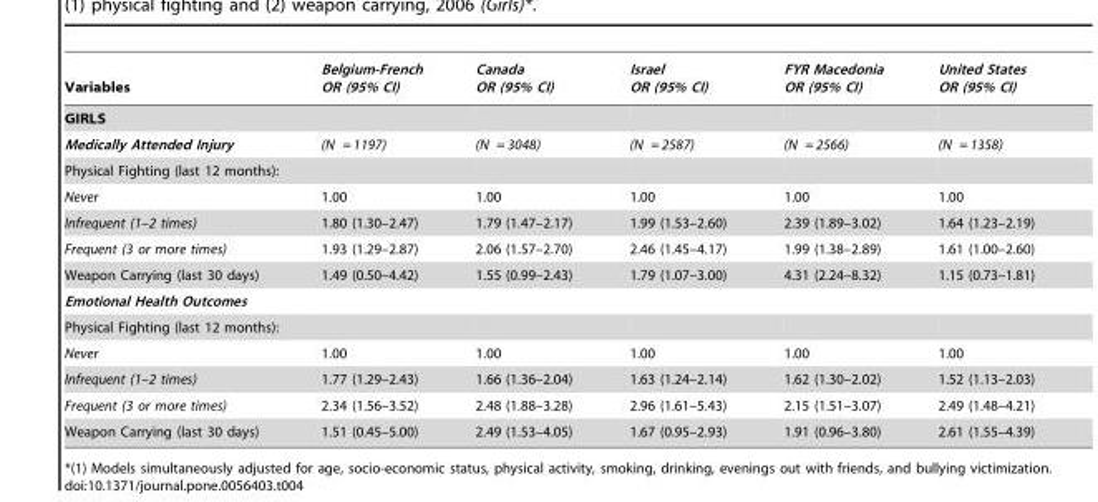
<table><thead><tr><td>Variables</td><td>Belgium-French OR (95% CI)</td><td>Canada OR (95% CI)</td><td>Israel OR (95% CI)</td><td>FYR Macedonia OR (95% CI)</td><td>United States OR (95% CI)</td></tr></thead><tbody><tr><td colspan="6">GIRLS</td></tr><tr><td>Medically Attended Injury</td><td>(N = 1197)</td><td>(N = 3048)</td><td>(N = 2587)</td><td>(N = 2566)</td><td>(N = 1358)</td></tr><tr><td colspan="6">Physical Fighting (last 12 months):</td></tr><tr><td>Never</td><td>1.00</td><td>1.00</td><td>1.00</td><td>1.00</td><td>1.00</td></tr><tr><td>Infrequent (1–2 times)</td><td>1.80 (1.30–2.47)</td><td>1.79 (1.47–2.17)</td><td>1.99 (1.53–2.60)</td><td>2.39 (1.89–3.02)</td><td>1.64 (1.23–2.19)</td></tr><tr><td>Frequent (3 or more times)</td><td>1.93 (1.29–2.87)</td><td>2.06 (1.57–2.70)</td><td>2.46 (1.45–4.17)</td><td>1.99 (1.38–2.89)</td><td>1.61 (1.00–2.60)</td></tr><tr><td>Weapon Carrying (last 30 days)</td><td>1.49 (0.50–4.42)</td><td>1.55 (0.99–2.43)</td><td>1.79 (1.07–3.00)</td><td>4.31 (2.24–8.32)</td><td>1.15 (0.73–1.81)</td></tr><tr><td colspan="6">Emotional Health Outcomes</td></tr><tr><td colspan="6">Physical Fighting (last 12 months):</td></tr><tr><td>Never</td><td>1.00</td><td>1.00</td><td>1.00</td><td>1.00</td><td>1.00</td></tr><tr><td>Infrequent (1–2 times)</td><td>1.77 (1.29–2.43)</td><td>1.66 (1.36–2.04)</td><td>1.63 (1.24–2.14)</td><td>1.62 (1.30–2.02)</td><td>1.52 (1.13–2.03)</td></tr><tr><td>Frequent (3 or more times)</td><td>2.34 (1.56–3.52)</td><td>2.48 (1.88–3.28)</td><td>2.96 (1.61–5.43)</td><td>2.15 (1.51–3.07)</td><td>2.49 (1.48–4.21)</td></tr><tr><td>Weapon Carrying (last 30 days)</td><td>1.51 (0.45–5.00)</td><td>2.49 (1.53–4.05)</td><td>1.67 (0.95–2.93)</td><td>1.91 (0.96–3.80)</td><td>2.61 (1.55–4.39)</td></tr></tbody></table>